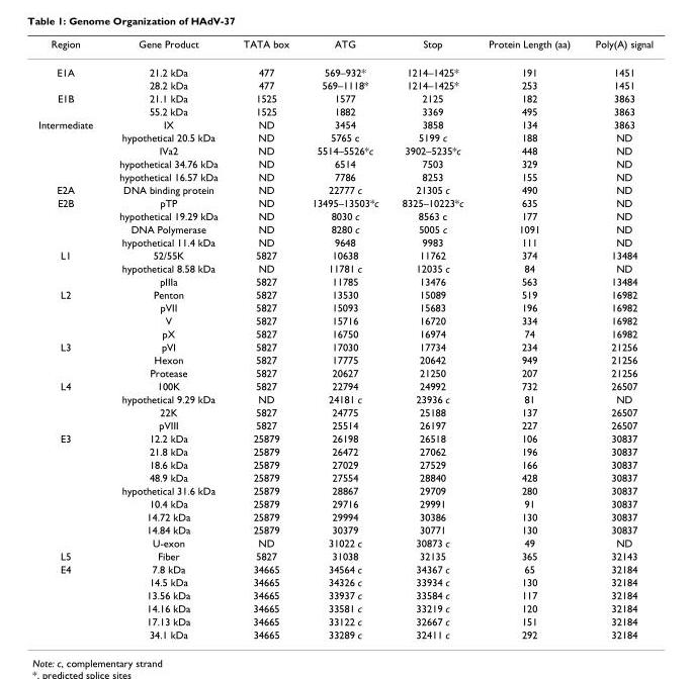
<table><thead><tr><td>Region</td><td>Gene Product</td><td>TATA box</td><td>ATG</td><td>Stop</td><td>Protein Length (aa)</td><td>Poly(A) signal</td></tr></thead><tbody><tr><td rowspan="2">E1A</td><td>21.2 kDa</td><td>477</td><td>569–932*</td><td>1214–1425*</td><td>191</td><td>1451</td></tr><tr><td>28.2 kDa</td><td>477</td><td>569–1118*</td><td>1214–1425*</td><td>253</td><td>1451</td></tr><tr><td rowspan="2">E1B</td><td>21.1 kDa</td><td>1525</td><td>1577</td><td>2125</td><td>182</td><td>3863</td></tr><tr><td>55.2 kDa</td><td>1525</td><td>1882</td><td>3369</td><td>495</td><td>3863</td></tr><tr><td rowspan="5">Intermediate</td><td>IX</td><td>ND</td><td>3454</td><td>3858</td><td>134</td><td>3863</td></tr><tr><td>hypothetical 20.5 kDa</td><td>ND</td><td>5765 c</td><td>5199 c</td><td>188</td><td>ND</td></tr><tr><td>IVa2</td><td>ND</td><td>5514–5526*c</td><td>3902–5235*c</td><td>448</td><td>ND</td></tr><tr><td>hypothetical 34.76 kDa</td><td>ND</td><td>6514</td><td>7503</td><td>329</td><td>ND</td></tr><tr><td>hypothetical 16.57 kDa</td><td>ND</td><td>7786</td><td>8253</td><td>155</td><td>ND</td></tr><tr><td>E2A</td><td>DNA binding protein</td><td>ND</td><td>22777 c</td><td>21305 c</td><td>490</td><td>ND</td></tr><tr><td rowspan="4">E2B</td><td>pTP</td><td>ND</td><td>13495–13503*c</td><td>8325–10223*c</td><td>635</td><td>ND</td></tr><tr><td>hypothetical 19.29 kDa</td><td>ND</td><td>8030 c</td><td>8563 c</td><td>177</td><td>ND</td></tr><tr><td>DNA Polymerase</td><td>ND</td><td>8280 c</td><td>5005 c</td><td>1091</td><td>ND</td></tr><tr><td>hypothetical 11.4 kDa</td><td>ND</td><td>9648</td><td>9983</td><td>111</td><td>ND</td></tr><tr><td rowspan="3">L1</td><td>52/55K</td><td>5827</td><td>10638</td><td>11762</td><td>374</td><td>13484</td></tr><tr><td>hypothetical 8.58 kDa</td><td>ND</td><td>11781 c</td><td>12035 c</td><td>84</td><td>ND</td></tr><tr><td>pIIIa</td><td>5827</td><td>11785</td><td>13476</td><td>563</td><td>13484</td></tr><tr><td rowspan="4">L2</td><td>Penton</td><td>5827</td><td>13530</td><td>15089</td><td>519</td><td>16982</td></tr><tr><td>pVII</td><td>5827</td><td>15093</td><td>15683</td><td>196</td><td>16982</td></tr><tr><td>V</td><td>5827</td><td>15716</td><td>16720</td><td>334</td><td>16982</td></tr><tr><td>pX</td><td>5827</td><td>16750</td><td>16974</td><td>74</td><td>16982</td></tr><tr><td rowspan="3">L3</td><td>pVI</td><td>5827</td><td>17030</td><td>17734</td><td>234</td><td>21256</td></tr><tr><td>Hexon</td><td>5827</td><td>17775</td><td>20642</td><td>949</td><td>21256</td></tr><tr><td>Protease</td><td>5827</td><td>20627</td><td>21250</td><td>207</td><td>21256</td></tr><tr><td rowspan="4">L4</td><td>100K</td><td>5827</td><td>22794</td><td>24992</td><td>732</td><td>26507</td></tr><tr><td>hypothetical 9.29 kDa</td><td>ND</td><td>24181 c</td><td>23936 c</td><td>81</td><td>ND</td></tr><tr><td>22K</td><td>5827</td><td>24775</td><td>25188</td><td>137</td><td>26507</td></tr><tr><td>pVIII</td><td>5827</td><td>25514</td><td>26197</td><td>227</td><td>26507</td></tr><tr><td rowspan="9">E3</td><td>12.2 kDa</td><td>25879</td><td>26198</td><td>26518</td><td>106</td><td>30837</td></tr><tr><td>21.8 kDa</td><td>25879</td><td>26472</td><td>27062</td><td>196</td><td>30837</td></tr><tr><td>18.6 kDa</td><td>25879</td><td>27029</td><td>27529</td><td>166</td><td>30837</td></tr><tr><td>48.9 kDa</td><td>25879</td><td>27554</td><td>28840</td><td>428</td><td>30837</td></tr><tr><td>hypothetical 31.6 kDa</td><td>25879</td><td>28867</td><td>29709</td><td>280</td><td>30837</td></tr><tr><td>10.4 kDa</td><td>25879</td><td>29716</td><td>29991</td><td>91</td><td>30837</td></tr><tr><td>14.72 kDa</td><td>25879</td><td>29994</td><td>30386</td><td>130</td><td>30837</td></tr><tr><td>14.84 kDa</td><td>25879</td><td>30379</td><td>30771</td><td>130</td><td>30837</td></tr><tr><td>U-exon</td><td>ND</td><td>31022 c</td><td>30873 c</td><td>49</td><td>ND</td></tr><tr><td>L5</td><td>Fiber</td><td>5827</td><td>31038</td><td>32135</td><td>365</td><td>32143</td></tr><tr><td rowspan="6">E4</td><td>7.8 kDa</td><td>34665</td><td>34564 c</td><td>34367 c</td><td>65</td><td>32184</td></tr><tr><td>14.5 kDa</td><td>34665</td><td>34326 c</td><td>33934 c</td><td>130</td><td>32184</td></tr><tr><td>13.56 kDa</td><td>34665</td><td>33937 c</td><td>33584 c</td><td>117</td><td>32184</td></tr><tr><td>14.16 kDa</td><td>34665</td><td>33581 c</td><td>33219 c</td><td>120</td><td>32184</td></tr><tr><td>17.13 kDa</td><td>34665</td><td>33122 c</td><td>32667 c</td><td>151</td><td>32184</td></tr><tr><td>34.1 kDa</td><td>34665</td><td>33289 c</td><td>32411 c</td><td>292</td><td>32184</td></tr></tbody></table>